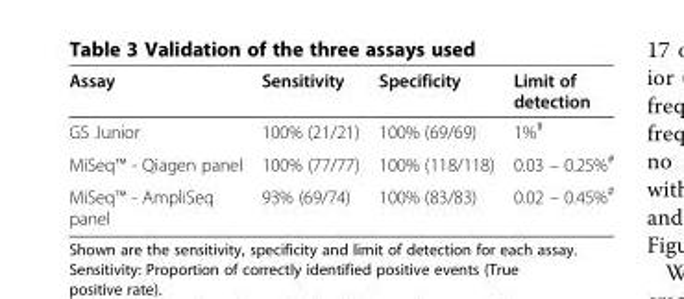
<table><thead><tr><td>Assay</td><td>Sensitivity</td><td>Specificity</td><td>Limit of detection</td></tr></thead><tbody><tr><td>GS Junior</td><td>100% (21/21)</td><td>100% (69/69)</td><td>1%<sup>#</sup></td></tr><tr><td>MiSeq™ - Qiagen panel</td><td>100% (77/77)</td><td>100% (118/118)</td><td>0.03 – 0.25%<sup>#</sup></td></tr><tr><td>MiSeq™ - AmpliSeq panel</td><td>93% (69/74)</td><td>100% (83/83)</td><td>0.02 – 0.45%<sup>#</sup></td></tr></tbody></table>